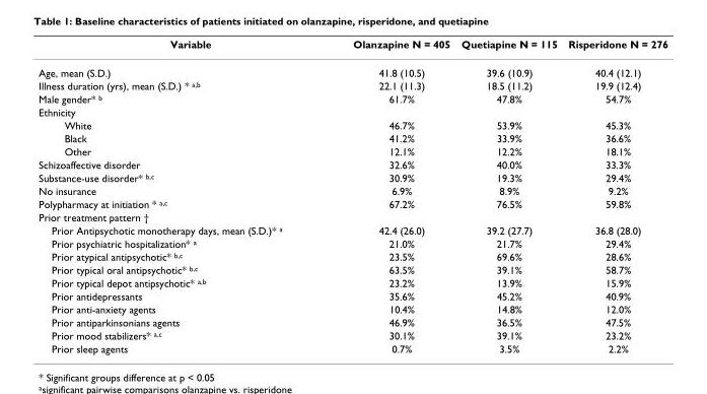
<table><thead><tr><td>Variable</td><td>Olanzapine N = 405</td><td>Quetiapine N = 115</td><td>Risperidone N = 276</td></tr></thead><tbody><tr><td>Age, mean (S.D.)</td><td>41.8 (10.5)</td><td>39.6 (10.9)</td><td>40.4 (12.1)</td></tr><tr><td>Illness duration (yrs), mean (S.D.) * <sup>a,b</sup></td><td>22.1 (11.3)</td><td>18.5 (11.2)</td><td>19.9 (12.4)</td></tr><tr><td>Male gender* <sup>b</sup></td><td>61.7%</td><td>47.8%</td><td>54.7%</td></tr><tr><td colspan="4">Ethnicity</td></tr><tr><td>White</td><td>46.7%</td><td>53.9%</td><td>45.3%</td></tr><tr><td>Black</td><td>41.2%</td><td>33.9%</td><td>36.6%</td></tr><tr><td>Other</td><td>12.1%</td><td>12.2%</td><td>18.1%</td></tr><tr><td>Schizoaffective disorder</td><td>32.6%</td><td>40.0%</td><td>33.3%</td></tr><tr><td>Substance-use disorder* <sup>b,c</sup></td><td>30.9%</td><td>19.3%</td><td>29.4%</td></tr><tr><td>No insurance</td><td>6.9%</td><td>8.9%</td><td>9.2%</td></tr><tr><td>Polypharmacy at initiation * <sup>a,c</sup></td><td>67.2%</td><td>76.5%</td><td>59.8%</td></tr><tr><td colspan="4">Prior treatment pattern †</td></tr><tr><td>Prior Antipsychotic monotherapy days, mean (S.D.)* <sup>a</sup></td><td>42.4 (26.0)</td><td>39.2 (27.7)</td><td>36.8 (28.0)</td></tr><tr><td>Prior psychiatric hospitalization* <sup>a</sup></td><td>21.0%</td><td>21.7%</td><td>29.4%</td></tr><tr><td>Prior atypical antipsychotic* <sup>b,c</sup></td><td>23.5%</td><td>69.6%</td><td>28.6%</td></tr><tr><td>Prior typical oral antipsychotic* <sup>b,c</sup></td><td>63.5%</td><td>39.1%</td><td>58.7%</td></tr><tr><td>Prior typical depot antipsychotic* <sup>a,b</sup></td><td>23.2%</td><td>13.9%</td><td>15.9%</td></tr><tr><td>Prior antidepressants</td><td>35.6%</td><td>45.2%</td><td>40.9%</td></tr><tr><td>Prior anti-anxiety agents</td><td>10.4%</td><td>14.8%</td><td>12.0%</td></tr><tr><td>Prior antiparkinsonians agents</td><td>46.9%</td><td>36.5%</td><td>47.5%</td></tr><tr><td>Prior mood stabilizers* <sup>a,c</sup></td><td>30.1%</td><td>39.1%</td><td>23.2%</td></tr><tr><td>Prior sleep agents</td><td>0.7%</td><td>3.5%</td><td>2.2%</td></tr></tbody></table>